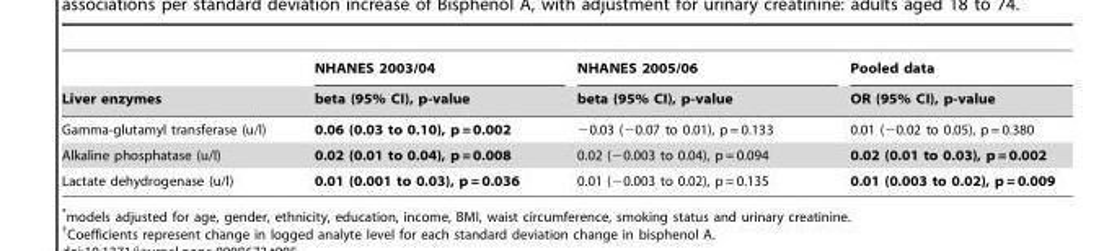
<table><thead><tr><td rowspan="2">Liver enzymes</td><td rowspan="2">NHANES 2003/04 beta (95% CI), p-value</td><td rowspan="2">NHANES 2005/06 beta (95% CI), p-value</td><td rowspan="2">Pooled data OR (95% CI), p-value</td></tr><tr></tr></thead><tbody><tr><td>Gamma-glutamyl transferase (u/l)</td><td>0.06 (0.03 to 0.10), p = 0.002</td><td>−0.03 (−0.07 to 0.01), p = 0.133</td><td>0.01 (−0.02 to 0.05), p = 0.380</td></tr><tr><td>Alkaline phosphatase (u/l)</td><td>0.02 (0.01 to 0.04), p = 0.008</td><td>0.02 (−0.003 to 0.04), p = 0.094</td><td>0.02 (0.01 to 0.03), p = 0.002</td></tr><tr><td>Lactate dehydrogenase (u/l)</td><td>0.01 (0.001 to 0.03), p = 0.036</td><td>0.01 (−0.003 to 0.02), p = 0.135</td><td>0.01 (0.003 to 0.02), p = 0.009</td></tr></tbody></table>